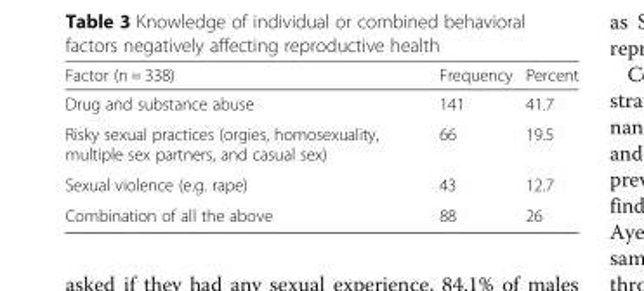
<table><thead><tr><td>Factor (n = 338)</td><td>Frequency</td><td>Percent</td></tr></thead><tbody><tr><td>Drug and substance abuse</td><td>141</td><td>41.7</td></tr><tr><td>Risky sexual practices (orgies, homosexuality, multiple sex partners, and casual sex)</td><td>66</td><td>19.5</td></tr><tr><td>Sexual violence (e.g. rape)</td><td>43</td><td>12.7</td></tr><tr><td>Combination of all the above</td><td>88</td><td>26</td></tr></tbody></table>